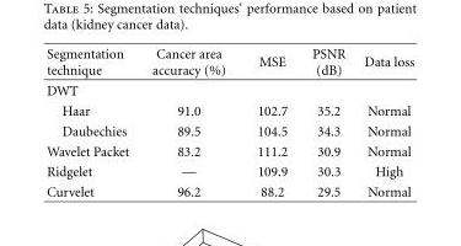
<table><thead><tr><td>Segmentation technique</td><td>Cancer area accuracy (%)</td><td>MSE</td><td>PSNR (dB)</td><td>Data loss</td></tr></thead><tbody><tr><td colspan="5">DWT</td></tr><tr><td>Haar</td><td>91.0</td><td>102.7</td><td>35.2</td><td>Normal</td></tr><tr><td>Daubechies</td><td>89.5</td><td>104.5</td><td>34.3</td><td>Normal</td></tr><tr><td>Wavelet Packet</td><td>83.2</td><td>111.2</td><td>30.9</td><td>Normal</td></tr><tr><td>Ridgelet</td><td>—</td><td>109.9</td><td>30.3</td><td>High</td></tr><tr><td>Curvelet</td><td>96.2</td><td>88.2</td><td>29.5</td><td>Normal</td></tr></tbody></table>